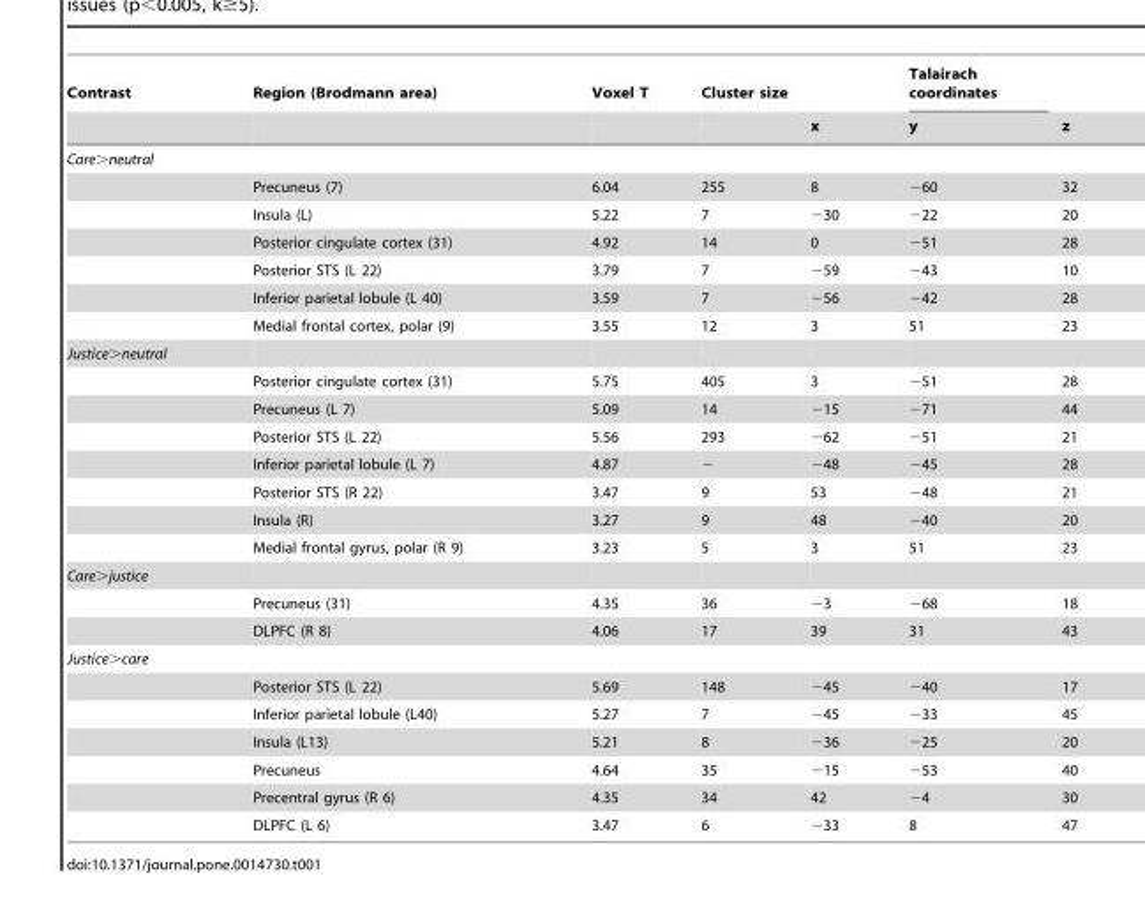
<table><thead><tr><td rowspan="2">Contrast</td><td rowspan="2">Region (Brodmann area)</td><td rowspan="2">Voxel T</td><td rowspan="2">Cluster size</td><td rowspan="2">x</td><td rowspan="2">Talairach coordinates y</td><td rowspan="2">z</td></tr><tr></tr></thead><tbody><tr><td colspan="7">Care&gt;neutral</td></tr><tr><td></td><td>Precuneus (7)</td><td>6.04</td><td>255</td><td>8</td><td>−60</td><td>32</td></tr><tr><td></td><td>Insula (L)</td><td>5.22</td><td>7</td><td>−30</td><td>−22</td><td>20</td></tr><tr><td></td><td>Posterior cingulate cortex (31)</td><td>4.92</td><td>14</td><td>0</td><td>−51</td><td>28</td></tr><tr><td></td><td>Posterior STS (L 22)</td><td>3.79</td><td>7</td><td>−59</td><td>−43</td><td>10</td></tr><tr><td></td><td>Inferior parietal lobule (L 40)</td><td>3.59</td><td>7</td><td>−56</td><td>−42</td><td>28</td></tr><tr><td></td><td>Medial frontal cortex, polar (9)</td><td>3.55</td><td>12</td><td>3</td><td>51</td><td>23</td></tr><tr><td colspan="7">Justice&gt;neutral</td></tr><tr><td></td><td>Posterior cingulate cortex (31)</td><td>5.75</td><td>405</td><td>3</td><td>−51</td><td>28</td></tr><tr><td></td><td>Precuneus (L 7)</td><td>5.09</td><td>14</td><td>−15</td><td>−71</td><td>44</td></tr><tr><td></td><td>Posterior STS (L 22)</td><td>5.56</td><td>293</td><td>−62</td><td>−51</td><td>21</td></tr><tr><td></td><td>Inferior parietal lobule (L 7)</td><td>4.87</td><td>−</td><td>−48</td><td>−45</td><td>28</td></tr><tr><td></td><td>Posterior STS (R 22)</td><td>3.47</td><td>9</td><td>53</td><td>−48</td><td>21</td></tr><tr><td></td><td>Insula (R)</td><td>3.27</td><td>9</td><td>48</td><td>−40</td><td>20</td></tr><tr><td></td><td>Medial frontal gyrus, polar (R 9)</td><td>3.23</td><td>5</td><td>3</td><td>51</td><td>23</td></tr><tr><td colspan="7">Care&gt;justice</td></tr><tr><td></td><td>Precuneus (31)</td><td>4.35</td><td>36</td><td>−3</td><td>−68</td><td>18</td></tr><tr><td></td><td>DLPFC (R 8)</td><td>4.06</td><td>17</td><td>39</td><td>31</td><td>43</td></tr><tr><td colspan="7">Justice&gt;care</td></tr><tr><td></td><td>Posterior STS (L 22)</td><td>5.69</td><td>148</td><td>−45</td><td>−40</td><td>17</td></tr><tr><td></td><td>Inferior parietal lobule (L40)</td><td>5.27</td><td>7</td><td>−45</td><td>−33</td><td>45</td></tr><tr><td></td><td>Insula (L13)</td><td>5.21</td><td>8</td><td>−36</td><td>−25</td><td>20</td></tr><tr><td></td><td>Precuneus</td><td>4.64</td><td>35</td><td>−15</td><td>−53</td><td>40</td></tr><tr><td></td><td>Precentral gyrus (R 6)</td><td>4.35</td><td>34</td><td>42</td><td>−4</td><td>30</td></tr><tr><td></td><td>DLPFC (L 6)</td><td>3.47</td><td>6</td><td>−33</td><td>8</td><td>47</td></tr></tbody></table>